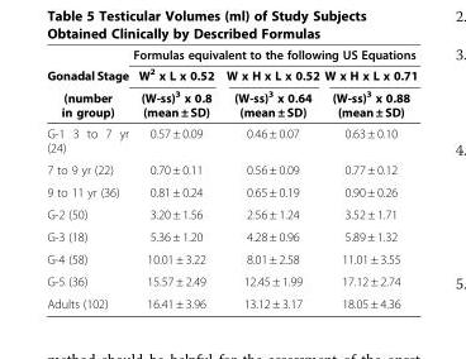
<table><thead><tr><td rowspan="2">Gonadal Stage</td><td colspan="3">Formulas equivalent to the following US Equations</td></tr><tr><td>W<sup>2</sup> x L x 0.52</td><td>W x H x L x 0.52</td><td>W x H x L x 0.71</td></tr></thead><tbody><tr><td>(number in group)</td><td>(W-ss)<sup>3</sup> x 0.8 (mean ± SD)</td><td>(W-ss)<sup>3</sup> x 0.64 (mean ± SD)</td><td>(W-ss)<sup>3</sup> x 0.88 (mean ± SD)</td></tr><tr><td>G-1 3 to 7 yr (24)</td><td>0.57 ± 0.09</td><td>0.46 ± 0.07</td><td>0.63 ± 0.10</td></tr><tr><td>7 to 9 yr (22)</td><td>0.70 ± 0.11</td><td>0.56 ± 0.09</td><td>0.77 ± 0.12</td></tr><tr><td>9 to 11 yr (36)</td><td>0.81 ± 0.24</td><td>0.65 ± 0.19</td><td>0.90 ± 0.26</td></tr><tr><td>G-2 (50)</td><td>3.20 ± 1.56</td><td>2.56 ± 1.24</td><td>3.52 ± 1.71</td></tr><tr><td>G-3 (18)</td><td>5.36 ± 1.20</td><td>4.28 ± 0.96</td><td>5.89 ± 1.32</td></tr><tr><td>G-4 (58)</td><td>10.01 ± 3.22</td><td>8.01 ± 2.58</td><td>11.01 ± 3.55</td></tr><tr><td>G-5 (36)</td><td>15.57 ± 2.49</td><td>12.45 ± 1.99</td><td>17.12 ± 2.74</td></tr><tr><td>Adults (102)</td><td>16.41 ± 3.96</td><td>13.12 ± 3.17</td><td>18.05 ± 4.36</td></tr></tbody></table>